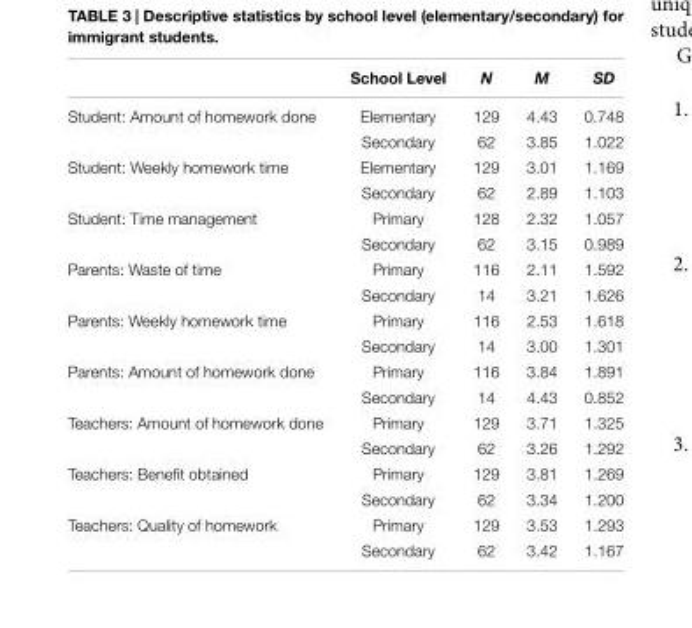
<table><thead><tr><td></td><td>School Level</td><td>N</td><td>M</td><td>SD</td></tr></thead><tbody><tr><td rowspan="2">Student: Amount of homework done</td><td>Elementary</td><td>129</td><td>4.43</td><td>0.748</td></tr><tr><td>Secondary</td><td>62</td><td>3.85</td><td>1.022</td></tr><tr><td rowspan="2">Student: Weekly homework time</td><td>Elementary</td><td>129</td><td>3.01</td><td>1.169</td></tr><tr><td>Secondary</td><td>62</td><td>2.89</td><td>1.103</td></tr><tr><td rowspan="2">Student: Time management</td><td>Primary</td><td>128</td><td>2.32</td><td>1.057</td></tr><tr><td>Secondary</td><td>62</td><td>3.15</td><td>0.989</td></tr><tr><td rowspan="2">Parents: Waste of time</td><td>Primary</td><td>116</td><td>2.11</td><td>1.592</td></tr><tr><td>Secondary</td><td>14</td><td>3.21</td><td>1.626</td></tr><tr><td rowspan="2">Parents: Weekly homework time</td><td>Primary</td><td>116</td><td>2.53</td><td>1.618</td></tr><tr><td>Secondary</td><td>14</td><td>3.00</td><td>1.301</td></tr><tr><td rowspan="2">Parents: Amount of homework done</td><td>Primary</td><td>116</td><td>3.84</td><td>1.891</td></tr><tr><td>Secondary</td><td>14</td><td>4.43</td><td>0.852</td></tr><tr><td rowspan="2">Teachers: Amount of homework done</td><td>Primary</td><td>129</td><td>3.71</td><td>1.325</td></tr><tr><td>Secondary</td><td>62</td><td>3.26</td><td>1.292</td></tr><tr><td rowspan="2">Teachers: Benefit obtained</td><td>Primary</td><td>129</td><td>3.81</td><td>1.269</td></tr><tr><td>Secondary</td><td>62</td><td>3.34</td><td>1.200</td></tr><tr><td rowspan="2">Teachers: Quality of homework</td><td>Primary</td><td>129</td><td>3.53</td><td>1.293</td></tr><tr><td>Secondary</td><td>62</td><td>3.42</td><td>1.167</td></tr></tbody></table>